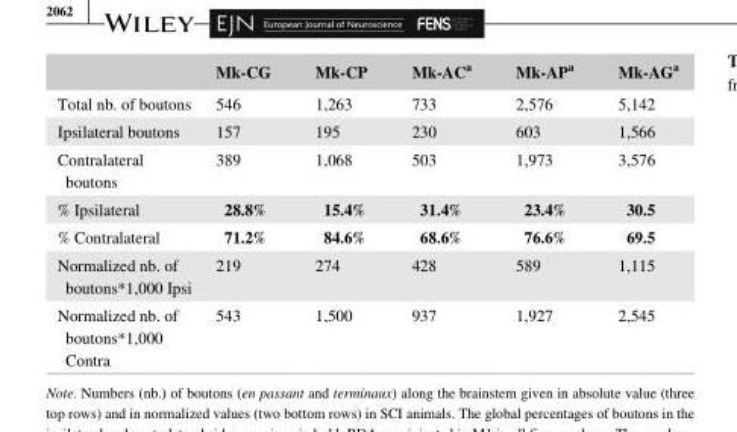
<table><thead><tr><td></td><td>Mk- CG</td><td>Mk- CP</td><td>Mk- AC<sup>a</sup></td><td>Mk- AP<sup>a</sup></td><td>Mk- AG<sup>a</sup></td></tr></thead><tbody><tr><td>Total nb. of boutons</td><td>546</td><td>1,263</td><td>733</td><td>2,576</td><td>5,142</td></tr><tr><td>Ipsilateral boutons</td><td>157</td><td>195</td><td>230</td><td>603</td><td>1,566</td></tr><tr><td>Contralateral boutons</td><td>389</td><td>1,068</td><td>503</td><td>1,973</td><td>3,576</td></tr><tr><td>% Ipsilateral</td><td>28.8%</td><td>15.4%</td><td>31.4%</td><td>23.4%</td><td>30.5</td></tr><tr><td>% Contralateral</td><td>71.2%</td><td>84.6%</td><td>68.6%</td><td>76.6%</td><td>69.5</td></tr><tr><td>Normalized nb. of boutons*1,000 Ipsi</td><td>219</td><td>274</td><td>428</td><td>589</td><td>1,115</td></tr><tr><td>Normalized nb. of boutons*1,000 Contra</td><td>543</td><td>1,500</td><td>937</td><td>1,927</td><td>2,545</td></tr></tbody></table>